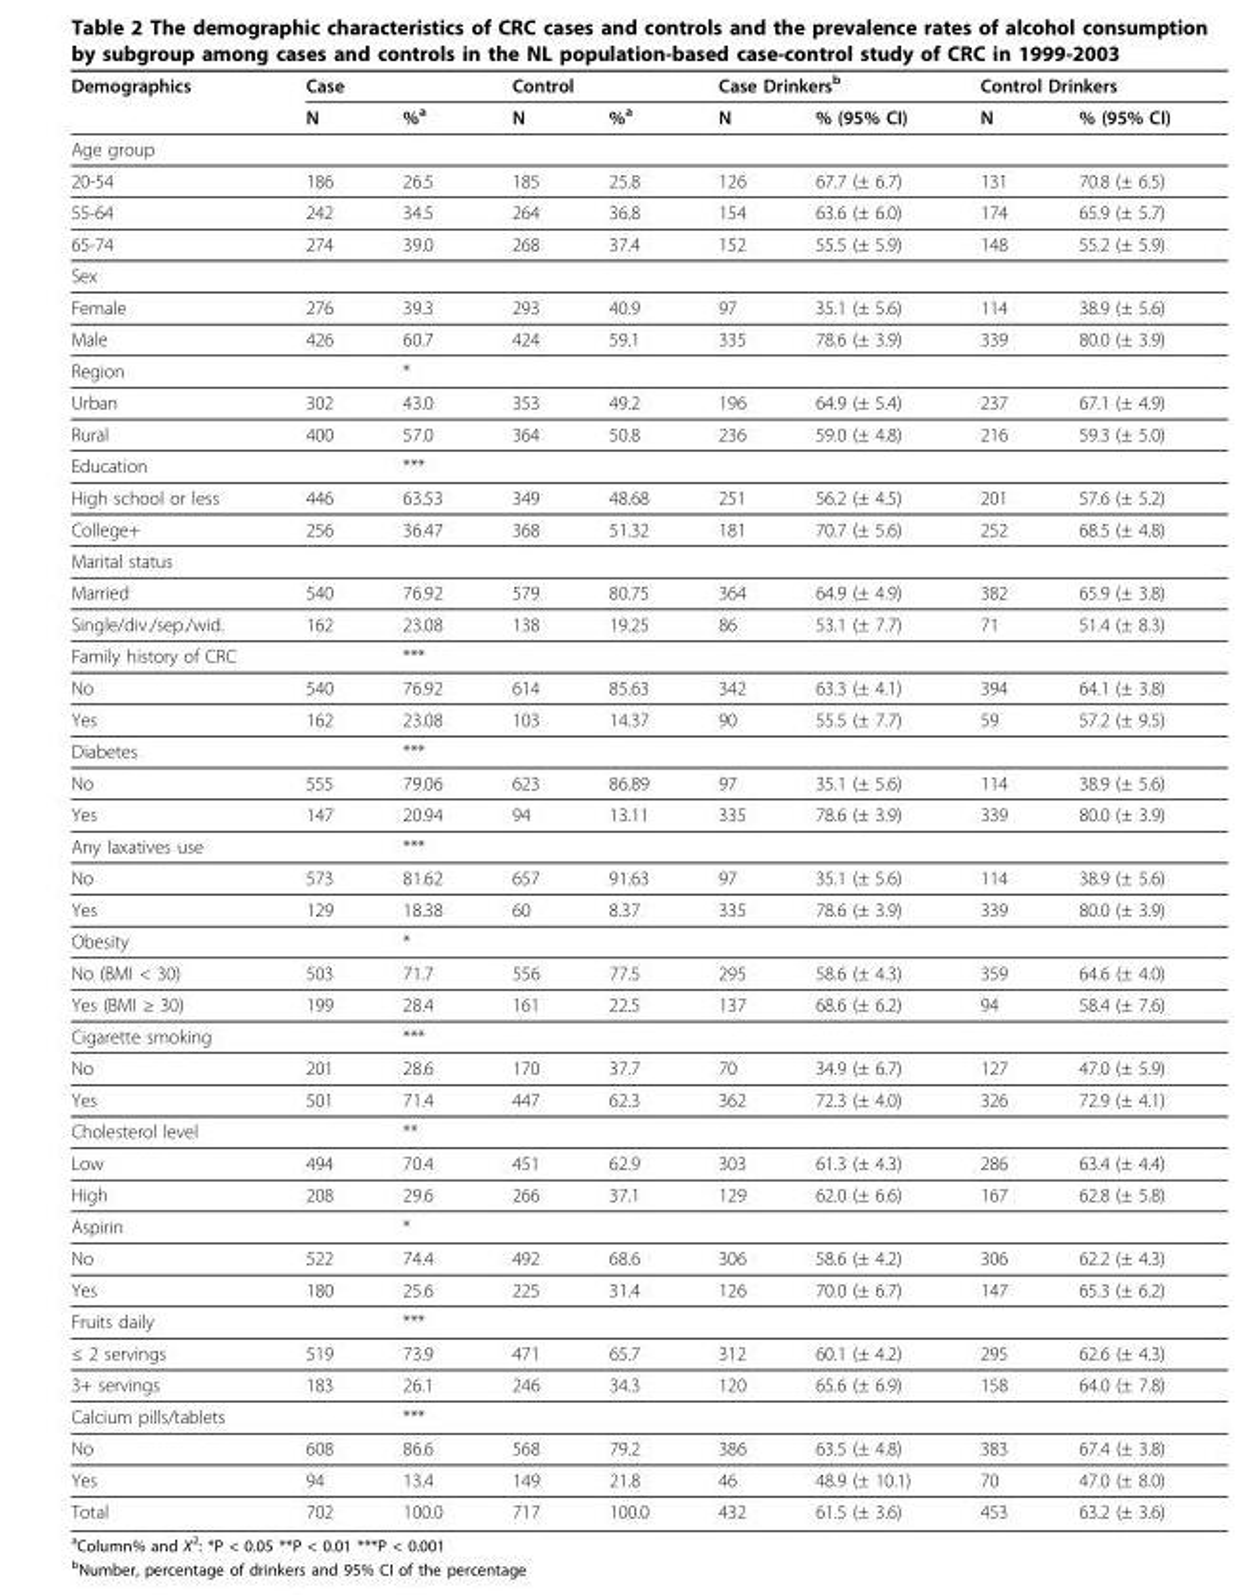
<table><thead><tr><td rowspan="2">Demographics</td><td colspan="2">Case</td><td colspan="2">Control</td><td colspan="2">Case Drinkers<sup>b</sup></td><td colspan="2">Control Drinkers</td></tr><tr><td>N</td><td>%<sup>a</sup></td><td>N</td><td>%<sup>a</sup></td><td>N</td><td>% (95% CI)</td><td>N</td><td>% (95% CI)</td></tr></thead><tbody><tr><td colspan="9">Age group</td></tr><tr><td>20-54</td><td>186</td><td>26.5</td><td>185</td><td>25.8</td><td>126</td><td>67.7 (± 6.7)</td><td>131</td><td>70.8 (± 6.5)</td></tr><tr><td>55-64</td><td>242</td><td>34.5</td><td>264</td><td>36.8</td><td>154</td><td>63.6 (± 6.0)</td><td>174</td><td>65.9 (± 5.7)</td></tr><tr><td>65-74</td><td>274</td><td>39.0</td><td>268</td><td>37.4</td><td>152</td><td>55.5 (± 5.9)</td><td>148</td><td>55.2 (± 5.9)</td></tr><tr><td colspan="9">Sex</td></tr><tr><td>Female</td><td>276</td><td>39.3</td><td>293</td><td>40.9</td><td>97</td><td>35.1 (± 5.6)</td><td>114</td><td>38.9 (± 5.6)</td></tr><tr><td>Male</td><td>426</td><td>60.7</td><td>424</td><td>59.1</td><td>335</td><td>78.6 (± 3.9)</td><td>339</td><td>80.0 (± 3.9)</td></tr><tr><td>Region</td><td></td><td>*</td><td></td><td></td><td></td><td></td><td></td><td></td></tr><tr><td>Urban</td><td>302</td><td>43.0</td><td>353</td><td>49.2</td><td>196</td><td>64.9 (± 5.4)</td><td>237</td><td>67.1 (± 4.9)</td></tr><tr><td>Rural</td><td>400</td><td>57.0</td><td>364</td><td>50.8</td><td>236</td><td>59.0 (± 4.8)</td><td>216</td><td>59.3 (± 5.0)</td></tr><tr><td>Education</td><td></td><td>***</td><td></td><td></td><td></td><td></td><td></td><td></td></tr><tr><td>High school or less</td><td>446</td><td>63.53</td><td>349</td><td>48.68</td><td>251</td><td>56.2 (± 4.5)</td><td>201</td><td>57.6 (± 5.2)</td></tr><tr><td>College+</td><td>256</td><td>36.47</td><td>368</td><td>51.32</td><td>181</td><td>70.7 (± 5.6)</td><td>252</td><td>68.5 (± 4.8)</td></tr><tr><td colspan="9">Marital status</td></tr><tr><td>Married</td><td>540</td><td>76.92</td><td>579</td><td>80.75</td><td>364</td><td>64.9 (± 4.9)</td><td>382</td><td>65.9 (± 3.8)</td></tr><tr><td>Single/div./sep./wid.</td><td>162</td><td>23.08</td><td>138</td><td>19.25</td><td>86</td><td>53.1 (± 7.7)</td><td>71</td><td>51.4 (± 8.3)</td></tr><tr><td>Family history of CRC</td><td></td><td>***</td><td></td><td></td><td></td><td></td><td></td><td></td></tr><tr><td>No</td><td>540</td><td>76.92</td><td>614</td><td>85.63</td><td>342</td><td>63.3 (± 4.1)</td><td>394</td><td>64.1 (± 3.8)</td></tr><tr><td>Yes</td><td>162</td><td>23.08</td><td>103</td><td>14.37</td><td>90</td><td>55.5 (± 7.7)</td><td>59</td><td>57.2 (± 9.5)</td></tr><tr><td>Diabetes</td><td></td><td>***</td><td></td><td></td><td></td><td></td><td></td><td></td></tr><tr><td>No</td><td>555</td><td>79.06</td><td>623</td><td>86.89</td><td>97</td><td>35.1 (± 5.6)</td><td>114</td><td>38.9 (± 5.6)</td></tr><tr><td>Yes</td><td>147</td><td>20.94</td><td>94</td><td>13.11</td><td>335</td><td>78.6 (± 3.9)</td><td>339</td><td>80.0 (± 3.9)</td></tr><tr><td>Any laxatives use</td><td></td><td>***</td><td></td><td></td><td></td><td></td><td></td><td></td></tr><tr><td>No</td><td>573</td><td>81.62</td><td>657</td><td>91.63</td><td>97</td><td>35.1 (± 5.6)</td><td>114</td><td>38.9 (± 5.6)</td></tr><tr><td>Yes</td><td>129</td><td>18.38</td><td>60</td><td>8.37</td><td>335</td><td>78.6 (± 3.9)</td><td>339</td><td>80.0 (± 3.9)</td></tr><tr><td>Obesity</td><td></td><td>*</td><td></td><td></td><td></td><td></td><td></td><td></td></tr><tr><td>No (BMI &lt; 30)</td><td>503</td><td>71.7</td><td>556</td><td>77.5</td><td>295</td><td>58.6 (± 4.3)</td><td>359</td><td>64.6 (± 4.0)</td></tr><tr><td>Yes (BMI ≥ 30)</td><td>199</td><td>28.4</td><td>161</td><td>22.5</td><td>137</td><td>68.6 (± 6.2)</td><td>94</td><td>58.4 (± 7.6)</td></tr><tr><td>Cigarette smoking</td><td></td><td>***</td><td></td><td></td><td></td><td></td><td></td><td></td></tr><tr><td>No</td><td>201</td><td>28.6</td><td>170</td><td>37.7</td><td>70</td><td>34.9 (± 6.7)</td><td>127</td><td>47.0 (± 5.9)</td></tr><tr><td>Yes</td><td>501</td><td>71.4</td><td>447</td><td>62.3</td><td>362</td><td>72.3 (± 4.0)</td><td>326</td><td>72.9 (± 4.1)</td></tr><tr><td>Cholesterol level</td><td></td><td>**</td><td></td><td></td><td></td><td></td><td></td><td></td></tr><tr><td>Low</td><td>494</td><td>70.4</td><td>451</td><td>62.9</td><td>303</td><td>61.3 (± 4.3)</td><td>286</td><td>63.4 (± 4.4)</td></tr><tr><td>High</td><td>208</td><td>29.6</td><td>266</td><td>37.1</td><td>129</td><td>62.0 (± 6.6)</td><td>167</td><td>62.8 (± 5.8)</td></tr><tr><td>Aspirin</td><td></td><td>*</td><td></td><td></td><td></td><td></td><td></td><td></td></tr><tr><td>No</td><td>522</td><td>74.4</td><td>492</td><td>68.6</td><td>306</td><td>58.6 (± 4.2)</td><td>306</td><td>62.2 (± 4.3)</td></tr><tr><td>Yes</td><td>180</td><td>25.6</td><td>225</td><td>31.4</td><td>126</td><td>70.0 (± 6.7)</td><td>147</td><td>65.3 (± 6.2)</td></tr><tr><td>Fruits daily</td><td></td><td>***</td><td></td><td></td><td></td><td></td><td></td><td></td></tr><tr><td>≤ 2 servings</td><td>519</td><td>73.9</td><td>471</td><td>65.7</td><td>312</td><td>60.1 (± 4.2)</td><td>295</td><td>62.6 (± 4.3)</td></tr><tr><td>3+ servings</td><td>183</td><td>26.1</td><td>246</td><td>34.3</td><td>120</td><td>65.6 (± 6.9)</td><td>158</td><td>64.0 (± 7.8)</td></tr><tr><td>Calcium pills/tablets</td><td></td><td>***</td><td></td><td></td><td></td><td></td><td></td><td></td></tr><tr><td>No</td><td>608</td><td>86.6</td><td>568</td><td>79.2</td><td>386</td><td>63.5 (± 4.8)</td><td>383</td><td>67.4 (± 3.8)</td></tr><tr><td>Yes</td><td>94</td><td>13.4</td><td>149</td><td>21.8</td><td>46</td><td>48.9 (± 10.1)</td><td>70</td><td>47.0 (± 8.0)</td></tr><tr><td>Total</td><td>702</td><td>100.0</td><td>717</td><td>100.0</td><td>432</td><td>61.5 (± 3.6)</td><td>453</td><td>63.2 (± 3.6)</td></tr></tbody></table>